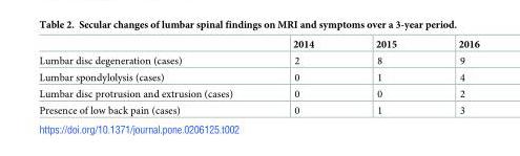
<table><thead><tr><td></td><td>2014</td><td>2015</td><td>2016</td></tr></thead><tbody><tr><td>Lumbar disc degeneration (cases)</td><td>2</td><td>8</td><td>9</td></tr><tr><td>Lumbar spondylolysis (cases)</td><td>0</td><td>1</td><td>4</td></tr><tr><td>Lumbar disc protrusion and extrusion (cases)</td><td>0</td><td>0</td><td>2</td></tr><tr><td>Presence of low back pain (cases)</td><td>0</td><td>1</td><td>3</td></tr></tbody></table>